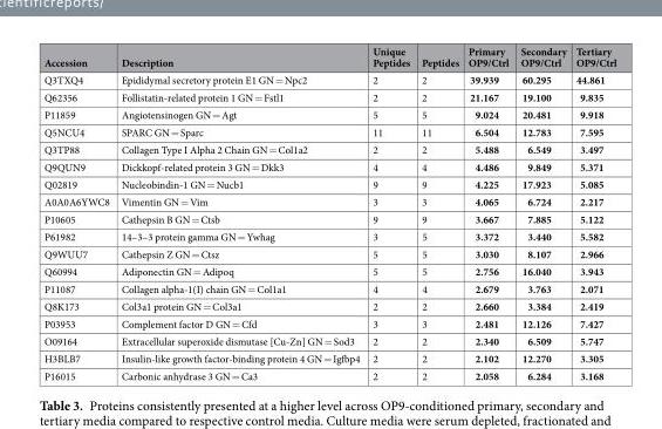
<table><thead><tr><td>Accession</td><td>Description</td><td>Unique Peptides</td><td>Peptides</td><td>Primary OP9/Ctrl</td><td>Secondary OP9/Ctrl</td><td>Tertiary OP9/Ctrl</td></tr></thead><tbody><tr><td>Q3TXQ4</td><td>Epididymal secretory protein E1 GN = Npc2</td><td>2</td><td>2</td><td>39.939</td><td>60.295</td><td>44.861</td></tr><tr><td>Q62356</td><td>Follistatin-related protein 1 GN = Fstl1</td><td>2</td><td>2</td><td>21.167</td><td>19.100</td><td>9.835</td></tr><tr><td>P11859</td><td>Angiotensinogen GN = Agt</td><td>5</td><td>5</td><td>9.024</td><td>20.481</td><td>9.918</td></tr><tr><td>Q5NCU4</td><td>SPARC GN = Sparc</td><td>11</td><td>11</td><td>6.504</td><td>12.783</td><td>7.595</td></tr><tr><td>Q3TP88</td><td>Collagen Type I Alpha 2 Chain GN = Col1a2</td><td>2</td><td>2</td><td>5.488</td><td>6.549</td><td>3.497</td></tr><tr><td>Q9QUN9</td><td>Dickkopf-related protein 3 GN = Dkk3</td><td>4</td><td>4</td><td>4.486</td><td>9.849</td><td>5.371</td></tr><tr><td>Q02819</td><td>Nucleobindin-1 GN = Nucb1</td><td>9</td><td>9</td><td>4.225</td><td>17.923</td><td>5.085</td></tr><tr><td>A0A0A6YWC8</td><td>Vimentin GN = Vim</td><td>3</td><td>3</td><td>4.065</td><td>6.724</td><td>2.217</td></tr><tr><td>P10605</td><td>Cathepsin B GN = Ctsb</td><td>9</td><td>9</td><td>3.667</td><td>7.885</td><td>5.122</td></tr><tr><td>P61982</td><td>14–3–3 protein gamma GN = Ywhag</td><td>3</td><td>5</td><td>3.372</td><td>3.440</td><td>5.582</td></tr><tr><td>Q9WUU7</td><td>Cathepsin Z GN = Ctsz</td><td>5</td><td>5</td><td>3.030</td><td>8.107</td><td>2.966</td></tr><tr><td>Q60994</td><td>Adiponectin GN = Adipoq</td><td>5</td><td>5</td><td>2.756</td><td>16.040</td><td>3.943</td></tr><tr><td>P11087</td><td>Collagen alpha-1(I) chain GN = Col1a1</td><td>4</td><td>4</td><td>2.679</td><td>3.763</td><td>2.071</td></tr><tr><td>Q8K173</td><td>Col3a1 protein GN = Col3a1</td><td>2</td><td>2</td><td>2.660</td><td>3.384</td><td>2.419</td></tr><tr><td>P03953</td><td>Complement factor D GN = Cfd</td><td>3</td><td>3</td><td>2.481</td><td>12.126</td><td>7.427</td></tr><tr><td>O09164</td><td>Extracellular superoxide dismutase [Cu-Zn] GN = Sod3</td><td>2</td><td>2</td><td>2.340</td><td>6.509</td><td>5.747</td></tr><tr><td>H3BLB7</td><td>Insulin-like growth factor-binding protein 4 GN = Igfbp4</td><td>2</td><td>2</td><td>2.102</td><td>12.270</td><td>3.305</td></tr><tr><td>P16015</td><td>Carbonic anhydrase 3 GN = Ca3</td><td>2</td><td>2</td><td>2.058</td><td>6.284</td><td>3.168</td></tr></tbody></table>